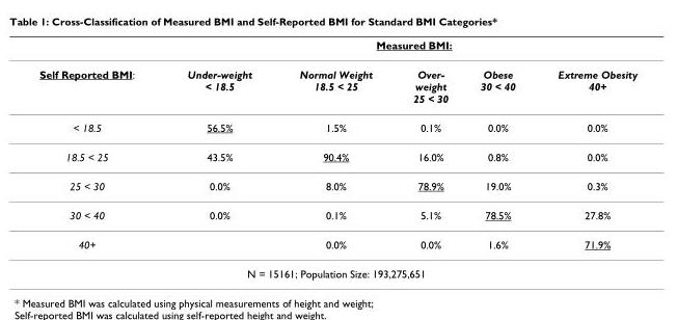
<table><thead><tr><td rowspan="2">Self Reported BMI:</td><td colspan="5">Measured BMI:</td></tr><tr><td>Under-weight &lt; 18.5</td><td>Normal Weight 18.5 &lt; 25</td><td>Over- weight 25 &lt; 30</td><td>Obese 30 &lt; 40</td><td>Extreme Obesity 40+</td></tr></thead><tbody><tr><td>&lt; 18.5</td><td>56.5%</td><td>1.5%</td><td>0.1%</td><td>0.0%</td><td>0.0%</td></tr><tr><td>18.5 &lt; 25</td><td>43.5%</td><td>90.4%</td><td>16.0%</td><td>0.8%</td><td>0.0%</td></tr><tr><td>25 &lt; 30</td><td>0.0%</td><td>8.0%</td><td>78.9%</td><td>19.0%</td><td>0.3%</td></tr><tr><td>30 &lt; 40</td><td>0.0%</td><td>0.1%</td><td>5.1%</td><td>78.5%</td><td>27.8%</td></tr><tr><td>40+</td><td></td><td>0.0%</td><td>0.0%</td><td>1.6%</td><td>71.9%</td></tr><tr><td colspan="6">N = 15161; Population Size: 193,275,651</td></tr></tbody></table>